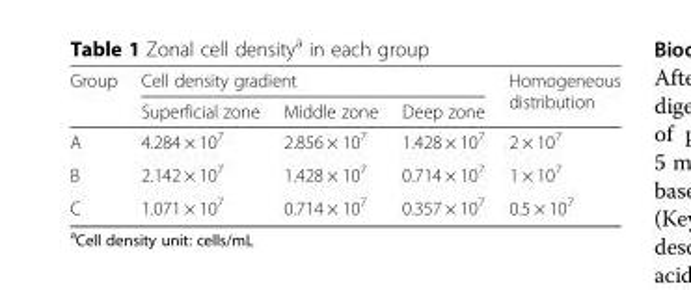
<table><thead><tr><td rowspan="2">Group</td><td colspan="3">Cell density gradient</td><td rowspan="2">Homogeneous distribution</td></tr><tr><td>Superficial zone</td><td>Middle zone</td><td>Deep zone</td></tr></thead><tbody><tr><td>A</td><td>4.284 × 10<sup>7</sup></td><td>2.856 × 10<sup>7</sup></td><td>1.428 × 10<sup>7</sup></td><td>2 × 10<sup>7</sup></td></tr><tr><td>B</td><td>2.142 × 10<sup>7</sup></td><td>1.428 × 10<sup>7</sup></td><td>0.714 × 10<sup>7</sup></td><td>1 × 10<sup>7</sup></td></tr><tr><td>C</td><td>1.071 × 10<sup>7</sup></td><td>0.714 × 10<sup>7</sup></td><td>0.357 × 10<sup>7</sup></td><td>0.5 × 10<sup>7</sup></td></tr></tbody></table>